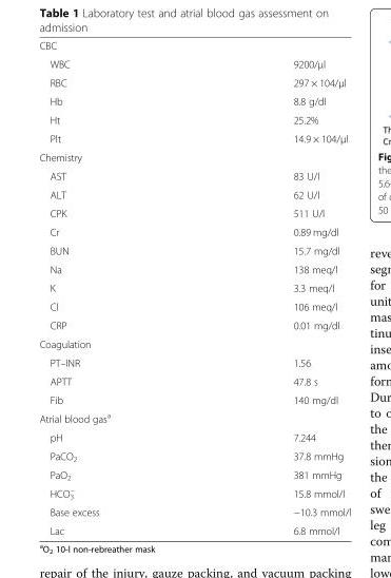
<table><tbody><tr><td colspan="2">CBC</td></tr><tr><td>WBC</td><td>9200/μl</td></tr><tr><td>RBC</td><td>297 × 104/μl</td></tr><tr><td>Hb</td><td>8.8 g/dl</td></tr><tr><td>Ht</td><td>25.2%</td></tr><tr><td>Plt</td><td>14.9 × 104/μl</td></tr><tr><td colspan="2">Chemistry</td></tr><tr><td>AST</td><td>83 U/l</td></tr><tr><td>ALT</td><td>62 U/l</td></tr><tr><td>CPK</td><td>511 U/l</td></tr><tr><td>Cr</td><td>0.89 mg/dl</td></tr><tr><td>BUN</td><td>15.7 mg/dl</td></tr><tr><td>Na</td><td>138 meq/l</td></tr><tr><td>K</td><td>3.3 meq/l</td></tr><tr><td>Cl</td><td>106 meq/l</td></tr><tr><td>CRP</td><td>0.01 mg/dl</td></tr><tr><td colspan="2">Coagulation</td></tr><tr><td>PT–INR</td><td>1.56</td></tr><tr><td>APTT</td><td>47.8 s</td></tr><tr><td>Fib</td><td>140 mg/dl</td></tr><tr><td colspan="2">Atrial blood gas<sup>a</sup></td></tr><tr><td>pH</td><td>7.244</td></tr><tr><td>PaCO<sub>2</sub></td><td>37.8 mmHg</td></tr><tr><td>PaO<sub>2</sub></td><td>381 mmHg</td></tr><tr><td>HCO<sub>3</sub> <sup>−</sup></td><td>15.8 mmol/l</td></tr><tr><td>Base excess</td><td>−10.3 mmol/l</td></tr><tr><td>Lac</td><td>6.8 mmol/l</td></tr></tbody></table>